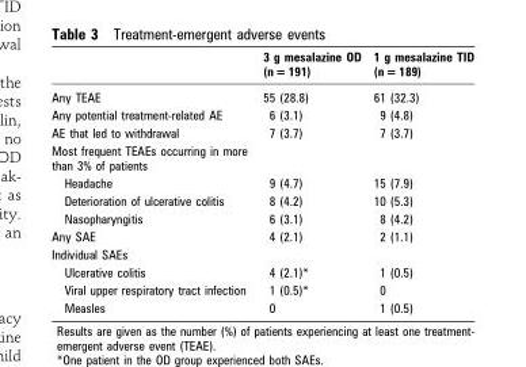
<table><thead><tr><td></td><td>3 g mesalazine OD (n = 191)</td><td>1 g mesalazine TID (n = 189)</td></tr></thead><tbody><tr><td>Any TEAE</td><td>55 (28.8)</td><td>61 (32.3)</td></tr><tr><td>Any potential treatment-related AE</td><td>6 (3.1)</td><td>9 (4.8)</td></tr><tr><td>AE that led to withdrawal</td><td>7 (3.7)</td><td>7 (3.7)</td></tr><tr><td colspan="3">Most frequent TEAEs occurring in more than 3% of patients</td></tr><tr><td>Headache</td><td>9 (4.7)</td><td>15 (7.9)</td></tr><tr><td>Deterioration of ulcerative colitis</td><td>8 (4.2)</td><td>10 (5.3)</td></tr><tr><td>Nasopharyngitis</td><td>6 (3.1)</td><td>8 (4.2)</td></tr><tr><td>Any SAE</td><td>4 (2.1)</td><td>2 (1.1)</td></tr><tr><td colspan="3">Individual SAEs</td></tr><tr><td>Ulcerative colitis</td><td>4 (2.1)*</td><td>1 (0.5)</td></tr><tr><td>Viral upper respiratory tract infection</td><td>1 (0.5)*</td><td>0</td></tr><tr><td>Measles</td><td>0</td><td>1 (0.5)</td></tr></tbody></table>